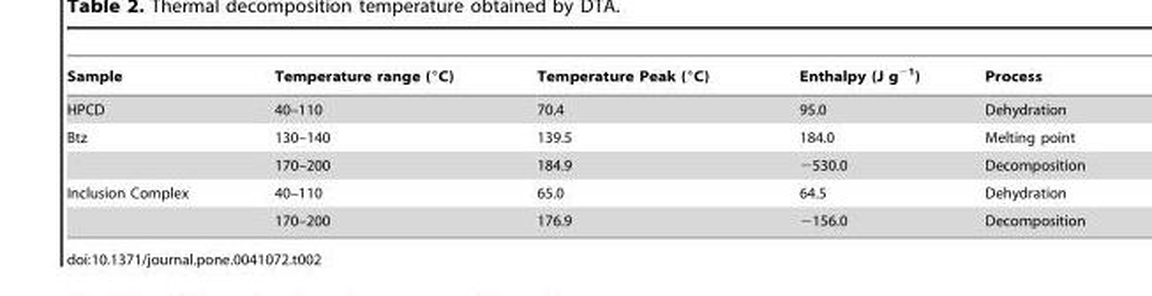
<table><thead><tr><td>Sample</td><td>Temperature range (°C)</td><td>Temperature Peak (°C)</td><td>Enthalpy (J g<sup>−1</sup>)</td><td>Process</td></tr></thead><tbody><tr><td>HPCD</td><td>40–110</td><td>70.4</td><td>95.0</td><td>Dehydration</td></tr><tr><td rowspan="2">Btz</td><td>130–140</td><td>139.5</td><td>184.0</td><td>Melting point</td></tr><tr><td>170–200</td><td>184.9</td><td>−530.0</td><td>Decomposition</td></tr><tr><td rowspan="2">Inclusion Complex</td><td>40–110</td><td>65.0</td><td>64.5</td><td>Dehydration</td></tr><tr><td>170–200</td><td>176.9</td><td>−156.0</td><td>Decomposition</td></tr></tbody></table>